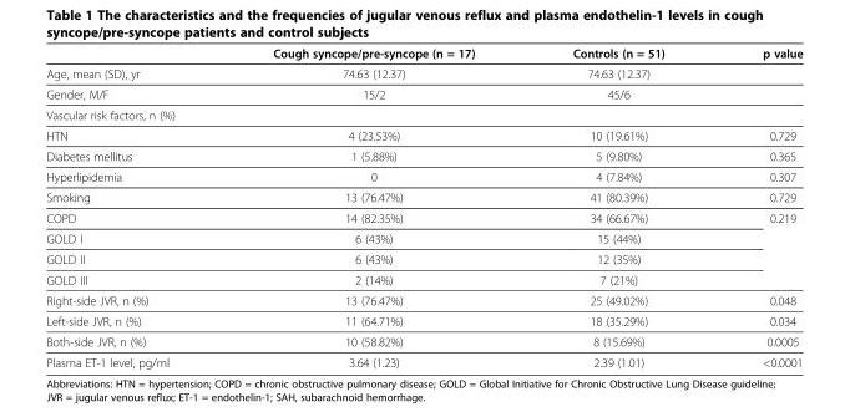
<table><thead><tr><td></td><td>Cough syncope/pre-syncope (n = 17)</td><td>Controls (n = 51)</td><td>p value</td></tr></thead><tbody><tr><td>Age, mean (SD), yr</td><td>74.63 (12.37)</td><td>74.63 (12.37)</td><td></td></tr><tr><td>Gender, M/F</td><td>15/2</td><td>45/6</td><td></td></tr><tr><td colspan="4">Vascular risk factors, n (%)</td></tr><tr><td>HTN</td><td>4 (23.53%)</td><td>10 (19.61%)</td><td>0.729</td></tr><tr><td>Diabetes mellitus</td><td>1 (5.88%)</td><td>5 (9.80%)</td><td>0.365</td></tr><tr><td>Hyperlipidemia</td><td>0</td><td>4 (7.84%)</td><td>0.307</td></tr><tr><td>Smoking</td><td>13 (76.47%)</td><td>41 (80.39%)</td><td>0.729</td></tr><tr><td>COPD</td><td>14 (82.35%)</td><td>34 (66.67%)</td><td rowspan="4">0.219</td></tr><tr><td>GOLD I</td><td>6 (43%)</td><td>15 (44%)</td></tr><tr><td>GOLD II</td><td>6 (43%)</td><td>12 (35%)</td></tr><tr><td>GOLD III</td><td>2 (14%)</td><td>7 (21%)</td></tr><tr><td>Right-side JVR, n (%)</td><td>13 (76.47%)</td><td>25 (49.02%)</td><td>0.048</td></tr><tr><td>Left-side JVR, n (%)</td><td>11 (64.71%)</td><td>18 (35.29%)</td><td>0.034</td></tr><tr><td>Both-side JVR, n (%)</td><td>10 (58.82%)</td><td>8 (15.69%)</td><td>0.0005</td></tr><tr><td>Plasma ET-1 level, pg/ml</td><td>3.64 (1.23)</td><td>2.39 (1.01)</td><td>&lt;0.0001</td></tr></tbody></table>